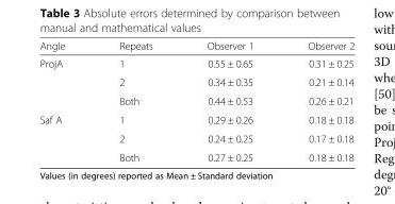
<table><thead><tr><td>Angle</td><td>Repeats</td><td>Observer 1</td><td>Observer 2</td></tr></thead><tbody><tr><td rowspan="3">ProjA</td><td>1</td><td>0.55 ± 0.65</td><td>0.31 ± 0.25</td></tr><tr><td>2</td><td>0.34 ± 0.35</td><td>0.21 ± 0.14</td></tr><tr><td>Both</td><td>0.44 ± 0.53</td><td>0.26 ± 0.21</td></tr><tr><td rowspan="3">Saf A</td><td>1</td><td>0.29 ± 0.26</td><td>0.18 ± 0.18</td></tr><tr><td>2</td><td>0.24 ± 0.25</td><td>0.17 ± 0.18</td></tr><tr><td>Both</td><td>0.27 ± 0.25</td><td>0.18 ± 0.18</td></tr></tbody></table>